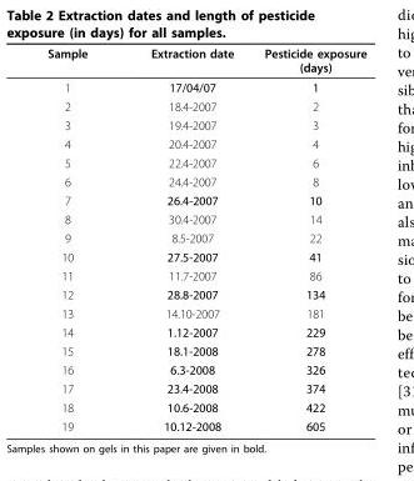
<table><thead><tr><td>Sample</td><td>Extraction date</td><td>Pesticide exposure (days)</td></tr></thead><tbody><tr><td>1</td><td>17/04/07</td><td>1</td></tr><tr><td>2</td><td>18.4-2007</td><td>2</td></tr><tr><td>3</td><td>19.4-2007</td><td>3</td></tr><tr><td>4</td><td>20.4-2007</td><td>4</td></tr><tr><td>5</td><td>22.4-2007</td><td>6</td></tr><tr><td>6</td><td>24.4-2007</td><td>8</td></tr><tr><td>7</td><td>26.4-2007</td><td>10</td></tr><tr><td>8</td><td>30.4-2007</td><td>14</td></tr><tr><td>9</td><td>8.5-2007</td><td>22</td></tr><tr><td>10</td><td>27.5-2007</td><td>41</td></tr><tr><td>11</td><td>11.7-2007</td><td>86</td></tr><tr><td>12</td><td>28.8-2007</td><td>134</td></tr><tr><td>13</td><td>14.10-2007</td><td>181</td></tr><tr><td>14</td><td>1.12-2007</td><td>229</td></tr><tr><td>15</td><td>18.1-2008</td><td>278</td></tr><tr><td>16</td><td>6.3-2008</td><td>326</td></tr><tr><td>17</td><td>23.4-2008</td><td>374</td></tr><tr><td>18</td><td>10.6-2008</td><td>422</td></tr><tr><td>19</td><td>10.12-2008</td><td>605</td></tr></tbody></table>